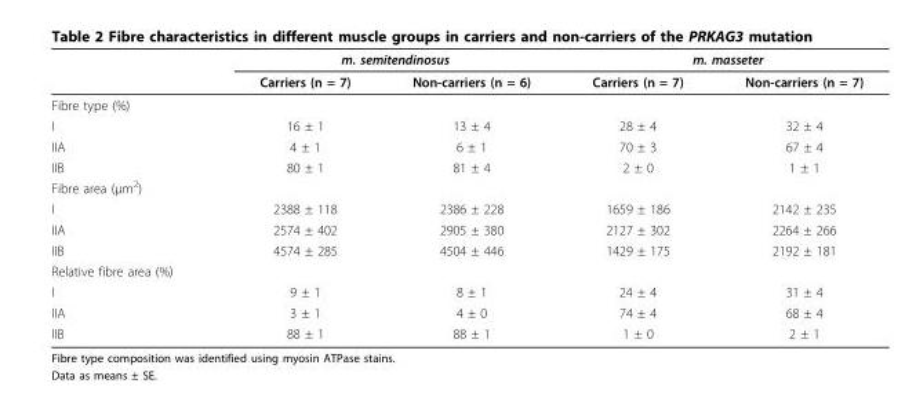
<table><thead><tr><td rowspan="2"></td><td colspan="2">m. semitendinosus</td><td colspan="2">m. masseter</td></tr><tr><td>Carriers (n = 7)</td><td>Non-carriers (n = 6)</td><td>Carriers (n = 7)</td><td>Non-carriers (n = 7)</td></tr></thead><tbody><tr><td colspan="5">Fibre type (%)</td></tr><tr><td>I</td><td>16 ± 1</td><td>13 ± 4</td><td>28 ± 4</td><td>32 ± 4</td></tr><tr><td>IIA</td><td>4 ± 1</td><td>6 ± 1</td><td>70 ± 3</td><td>67 ± 4</td></tr><tr><td>IIB</td><td>80 ± 1</td><td>81 ± 4</td><td>2 ± 0</td><td>1 ± 1</td></tr><tr><td colspan="5">Fibre area (μm<sup>2</sup>)</td></tr><tr><td>I</td><td>2388 ± 118</td><td>2386 ± 228</td><td>1659 ± 186</td><td>2142 ± 235</td></tr><tr><td>IIA</td><td>2574 ± 402</td><td>2905 ± 380</td><td>2127 ± 302</td><td>2264 ± 266</td></tr><tr><td>IIB</td><td>4574 ± 285</td><td>4504 ± 446</td><td>1429 ± 175</td><td>2192 ± 181</td></tr><tr><td colspan="5">Relative fibre area (%)</td></tr><tr><td>I</td><td>9 ± 1</td><td>8 ± 1</td><td>24 ± 4</td><td>31 ± 4</td></tr><tr><td>IIA</td><td>3 ± 1</td><td>4 ± 0</td><td>74 ± 4</td><td>68 ± 4</td></tr><tr><td>IIB</td><td>88 ± 1</td><td>88 ± 1</td><td>1 ± 0</td><td>2 ± 1</td></tr></tbody></table>